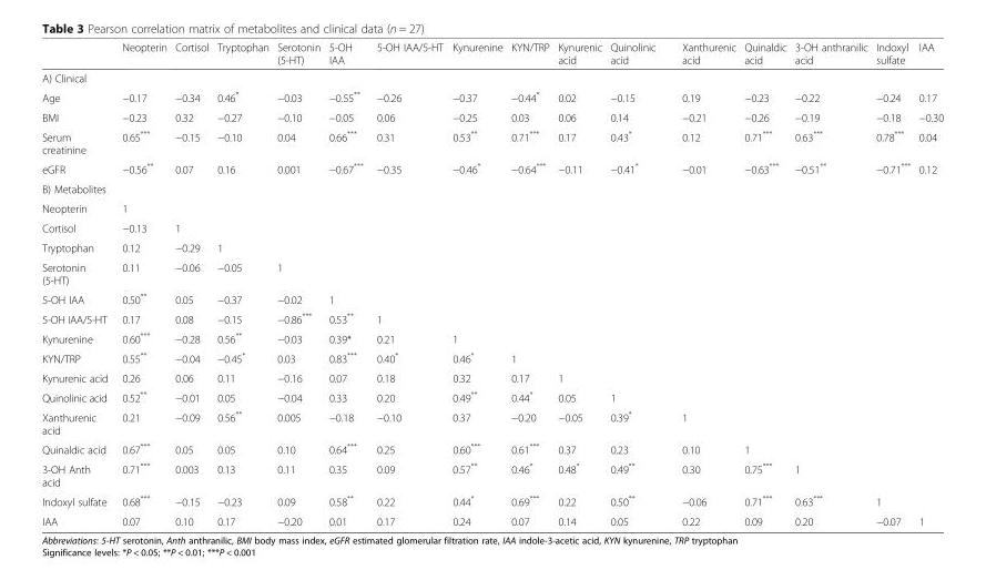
<table><thead><tr><td></td><td>Neopterin</td><td>Cortisol</td><td>Tryptophan</td><td>Serotonin (5-HT)</td><td>5-OH IAA</td><td>5-OH IAA/5-HT</td><td>Kynurenine</td><td>KYN/TRP</td><td>Kynurenic acid</td><td>Quinolinic acid</td><td>Xanthurenic acid</td><td>Quinaldic acid</td><td>3-OH anthranilic acid</td><td>Indoxyl sulfate</td><td>IAA</td></tr></thead><tbody><tr><td colspan="16">A) Clinical</td></tr><tr><td>Age</td><td>−0.17</td><td>−0.34</td><td>0.46*</td><td>−0.03</td><td>−0.55**</td><td>−0.26</td><td>−0.37</td><td>−0.44*</td><td>0.02</td><td>−0.15</td><td>0.19</td><td>−0.23</td><td>−0.22</td><td>−0.24</td><td>0.17</td></tr><tr><td>BMI</td><td>−0.23</td><td>0.32</td><td>−0.27</td><td>−0.10</td><td>−0.05</td><td>0.06</td><td>−0.25</td><td>0.03</td><td>0.06</td><td>0.14</td><td>−0.21</td><td>−0.26</td><td>−0.19</td><td>−0.18</td><td>−0.30</td></tr><tr><td>Serum creatinine</td><td>0.65***</td><td>−0.15</td><td>−0.10</td><td>0.04</td><td>0.66***</td><td>0.31</td><td>0.53**</td><td>0.71***</td><td>0.17</td><td>0.43*</td><td>0.12</td><td>0.71***</td><td>0.63***</td><td>0.78***</td><td>0.04</td></tr><tr><td>eGFR</td><td>−0.56**</td><td>0.07</td><td>0.16</td><td>0.001</td><td>−0.67***</td><td>−0.35</td><td>−0.46*</td><td>−0.64***</td><td>−0.11</td><td>−0.41*</td><td>−0.01</td><td>−0.63***</td><td>−0.51**</td><td>−0.71***</td><td>0.12</td></tr><tr><td colspan="16">B) Metabolites</td></tr><tr><td>Neopterin</td><td>1</td><td></td><td></td><td></td><td></td><td></td><td></td><td></td><td></td><td></td><td></td><td></td><td></td><td></td><td></td></tr><tr><td>Cortisol</td><td>−0.13</td><td>1</td><td></td><td></td><td></td><td></td><td></td><td></td><td></td><td></td><td></td><td></td><td></td><td></td><td></td></tr><tr><td>Tryptophan</td><td>0.12</td><td>−0.29</td><td>1</td><td></td><td></td><td></td><td></td><td></td><td></td><td></td><td></td><td></td><td></td><td></td><td></td></tr><tr><td>Serotonin (5-HT)</td><td>0.11</td><td>−0.06</td><td>−0.05</td><td>1</td><td></td><td></td><td></td><td></td><td></td><td></td><td></td><td></td><td></td><td></td><td></td></tr><tr><td>5-OH IAA</td><td>0.50**</td><td>0.05</td><td>−0.37</td><td>−0.02</td><td>1</td><td></td><td></td><td></td><td></td><td></td><td></td><td></td><td></td><td></td><td></td></tr><tr><td>5-OH IAA/5-HT</td><td>0.17</td><td>0.08</td><td>−0.15</td><td>−0.86***</td><td>0.53**</td><td>1</td><td></td><td></td><td></td><td></td><td></td><td></td><td></td><td></td><td></td></tr><tr><td>Kynurenine</td><td>0.60***</td><td>−0.28</td><td>0.56**</td><td>−0.03</td><td>0.39*</td><td>0.21</td><td>1</td><td></td><td></td><td></td><td></td><td></td><td></td><td></td><td></td></tr><tr><td>KYN/TRP</td><td>0.55**</td><td>−0.04</td><td>−0.45*</td><td>0.03</td><td>0.83***</td><td>0.40*</td><td>0.46*</td><td>1</td><td></td><td></td><td></td><td></td><td></td><td></td><td></td></tr><tr><td>Kynurenic acid</td><td>0.26</td><td>0.06</td><td>0.11</td><td>−0.16</td><td>0.07</td><td>0.18</td><td>0.32</td><td>0.17</td><td>1</td><td></td><td></td><td></td><td></td><td></td><td></td></tr><tr><td>Quinolinic acid</td><td>0.52**</td><td>−0.01</td><td>0.05</td><td>−0.04</td><td>0.33</td><td>0.20</td><td>0.49**</td><td>0.44*</td><td>0.05</td><td>1</td><td></td><td></td><td></td><td></td><td></td></tr><tr><td>Xanthurenic acid</td><td>0.21</td><td>−0.09</td><td>0.56**</td><td>0.005</td><td>−0.18</td><td>−0.10</td><td>0.37</td><td>−0.20</td><td>−0.05</td><td>0.39*</td><td>1</td><td></td><td></td><td></td><td></td></tr><tr><td>Quinaldic acid</td><td>0.67***</td><td>0.05</td><td>0.05</td><td>0.10</td><td>0.64***</td><td>0.25</td><td>0.60***</td><td>0.61***</td><td>0.37</td><td>0.23</td><td>0.10</td><td>1</td><td></td><td></td><td></td></tr><tr><td>3-OH Anth acid</td><td>0.71***</td><td>0.003</td><td>0.13</td><td>0.11</td><td>0.35</td><td>0.09</td><td>0.57**</td><td>0.46*</td><td>0.48*</td><td>0.49**</td><td>0.30</td><td>0.75***</td><td>1</td><td></td><td></td></tr><tr><td>Indoxyl sulfate</td><td>0.68***</td><td>−0.15</td><td>−0.23</td><td>0.09</td><td>0.58**</td><td>0.22</td><td>0.44*</td><td>0.69***</td><td>0.22</td><td>0.50**</td><td>−0.06</td><td>0.71***</td><td>0.63***</td><td>1</td><td></td></tr><tr><td>IAA</td><td>0.07</td><td>0.10</td><td>0.17</td><td>−0.20</td><td>0.01</td><td>0.17</td><td>0.24</td><td>0.07</td><td>0.14</td><td>0.05</td><td>0.22</td><td>0.09</td><td>0.20</td><td>−0.07</td><td>1</td></tr></tbody></table>